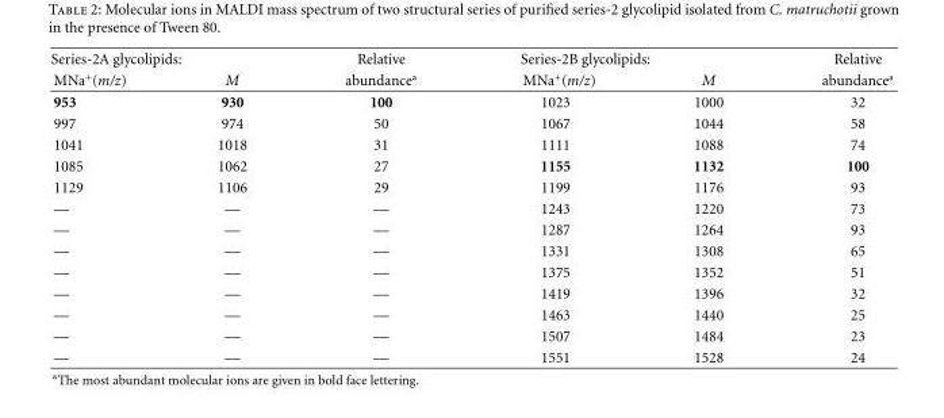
<table><tbody><tr><td colspan="2">Series-2A glycolipids:</td><td>Relative</td><td colspan="2">Series-2B glycolipids:</td><td>Relative</td></tr><tr><td>MNa<sup>+</sup>(m/z)</td><td>M</td><td>abundance<sup>a</sup></td><td>MNa<sup>+</sup>(m/z)</td><td>M</td><td>abundance<sup>a</sup></td></tr><tr><td>953</td><td>930</td><td>100</td><td>1023</td><td>1000</td><td>32</td></tr><tr><td>997</td><td>974</td><td>50</td><td>1067</td><td>1044</td><td>58</td></tr><tr><td>1041</td><td>1018</td><td>31</td><td>1111</td><td>1088</td><td>74</td></tr><tr><td>1085</td><td>1062</td><td>27</td><td>1155</td><td>1132</td><td>100</td></tr><tr><td>1129</td><td>1106</td><td>29</td><td>1199</td><td>1176</td><td>93</td></tr><tr><td>—</td><td>—</td><td>—</td><td>1243</td><td>1220</td><td>73</td></tr><tr><td>—</td><td>—</td><td>—</td><td>1287</td><td>1264</td><td>93</td></tr><tr><td>—</td><td>—</td><td>—</td><td>1331</td><td>1308</td><td>65</td></tr><tr><td>—</td><td>—</td><td>—</td><td>1375</td><td>1352</td><td>51</td></tr><tr><td>—</td><td>—</td><td>—</td><td>1419</td><td>1396</td><td>32</td></tr><tr><td>—</td><td>—</td><td>—</td><td>1463</td><td>1440</td><td>25</td></tr><tr><td>—</td><td>—</td><td>—</td><td>1507</td><td>1484</td><td>23</td></tr><tr><td>—</td><td>—</td><td>—</td><td>1551</td><td>1528</td><td>24</td></tr></tbody></table>